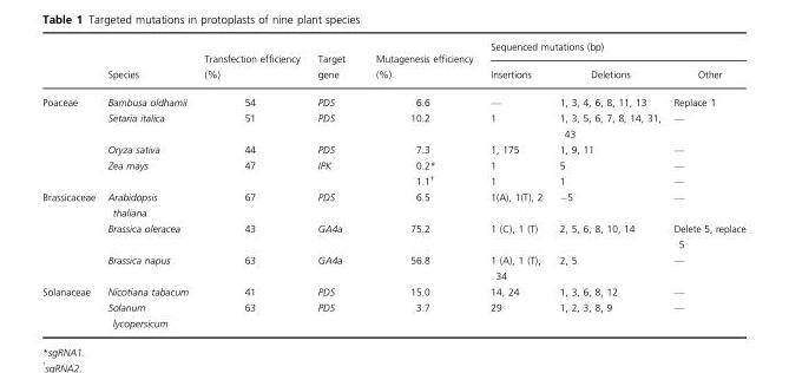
<table><thead><tr><td rowspan="2"></td><td rowspan="2">Species</td><td rowspan="2">Transfection efficiency (%)</td><td rowspan="2">Target gene</td><td rowspan="2">Mutagenesis efficiency (%)</td><td colspan="3">Sequenced mutations (bp)</td></tr><tr><td>Insertions</td><td>Deletions</td><td>Other</td></tr></thead><tbody><tr><td rowspan="5">Poaceae</td><td>Bambusa oldhamii</td><td>54</td><td>PDS</td><td>6.6</td><td>—</td><td>1, 3, 4, 6, 8, 11, 13</td><td>Replace 1</td></tr><tr><td>Setaria italica</td><td>51</td><td>PDS</td><td>10.2</td><td>1</td><td>1, 3, 5, 6, 7, 8, 14, 31, 43</td><td>—</td></tr><tr><td>Oryza sativa</td><td>44</td><td>PDS</td><td>7.3</td><td>1, 175</td><td>1, 9, 11</td><td>—</td></tr><tr><td>Zea mays</td><td>47</td><td>IPK</td><td>0.2*</td><td>1</td><td>5</td><td>—</td></tr><tr><td></td><td></td><td></td><td>1.1†</td><td>1</td><td>1</td><td>—</td></tr><tr><td rowspan="3">Brassicaceae</td><td>Arabidopsis thaliana</td><td>67</td><td>PDS</td><td>6.5</td><td>1(A), 1(T), 2</td><td>−5</td><td>—</td></tr><tr><td>Brassica oleracea</td><td>43</td><td>GA4a</td><td>75.2</td><td>1 (C), 1 (T)</td><td>2, 5, 6, 8, 10, 14</td><td>Delete 5, replace 5</td></tr><tr><td>Brassica napus</td><td>63</td><td>GA4a</td><td>56.8</td><td>1 (A), 1 (T), 34</td><td>2, 5</td><td>—</td></tr><tr><td rowspan="2">Solanaceae</td><td>Nicotiana tabacum</td><td>41</td><td>PDS</td><td>15.0</td><td>14, 24</td><td>1, 3, 6, 8, 12</td><td>—</td></tr><tr><td>Solanum lycopersicum</td><td>63</td><td>PDS</td><td>3.7</td><td>29</td><td>1, 2, 3, 8, 9</td><td>—</td></tr></tbody></table>